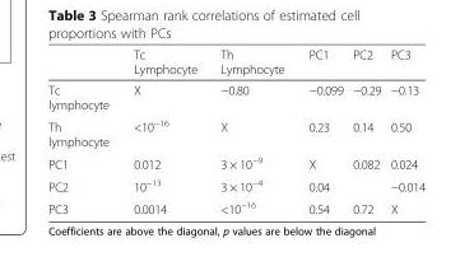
<table><thead><tr><td></td><td>Tc Lymphocyte</td><td>Th Lymphocyte</td><td>PC1</td><td>PC2</td><td>PC3</td></tr></thead><tbody><tr><td>Tc lymphocyte</td><td>X</td><td>−0.80</td><td>−0.099</td><td>−0.29</td><td>−0.13</td></tr><tr><td>Th lymphocyte</td><td>&lt;10<sup>−16</sup></td><td>X</td><td>0.23</td><td>0.14</td><td>0.50</td></tr><tr><td>PC1</td><td>0.012</td><td>3 × 10<sup>−9</sup></td><td>X</td><td>0.082</td><td>0.024</td></tr><tr><td>PC2</td><td>10<sup>−13</sup></td><td>3 × 10<sup>−4</sup></td><td>0.04</td><td></td><td>−0.014</td></tr><tr><td>PC3</td><td>0.0014</td><td>&lt;10<sup>−16</sup></td><td>0.54</td><td>0.72</td><td>X</td></tr></tbody></table>